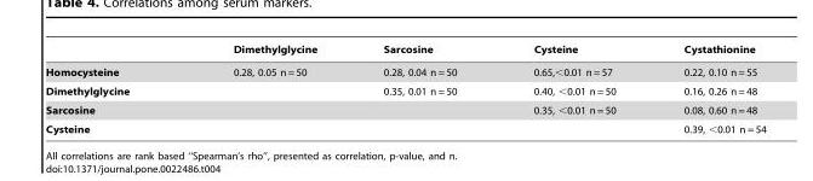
<table><thead><tr><td></td><td>Dimethylglycine</td><td>Sarcosine</td><td>Cysteine</td><td>Cystathionine</td></tr></thead><tbody><tr><td>Homocysteine</td><td>0.28, 0.05 n = 50</td><td>0.28, 0.04 n = 50</td><td>0.65,&lt;0.01 n = 57</td><td>0.22, 0.10 n = 55</td></tr><tr><td>Dimethylglycine</td><td></td><td>0.35, 0.01 n = 50</td><td>0.40, &lt;0.01 n = 50</td><td>0.16, 0.26 n = 48</td></tr><tr><td>Sarcosine</td><td></td><td></td><td>0.35, &lt;0.01 n = 50</td><td>0.08, 0.60 n = 48</td></tr><tr><td>Cysteine</td><td></td><td></td><td></td><td>0.39, &lt;0.01 n = 54</td></tr></tbody></table>